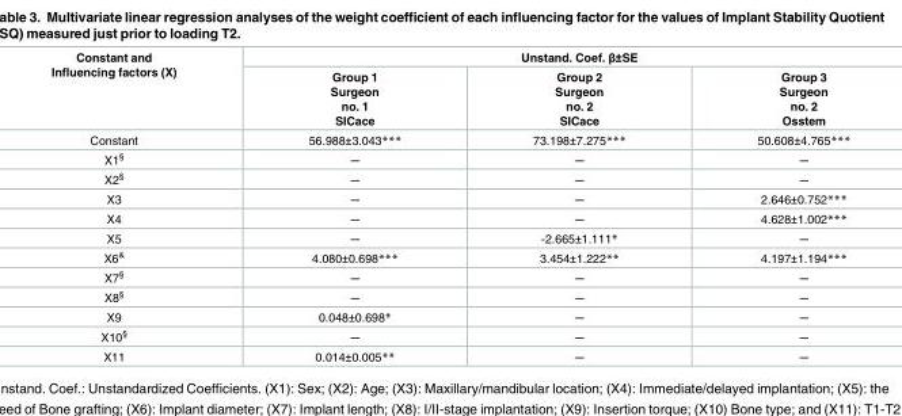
<table><thead><tr><td rowspan="2">Constant and Influencing factors (X)</td><td colspan="3">Unstand. Coef. β±SE</td></tr><tr><td>Group 1 Surgeon no. 1 SICace</td><td>Group 2 Surgeon no. 2 SICace</td><td>Group 3 Surgeon no. 2 Osstem</td></tr></thead><tbody><tr><td>Constant</td><td>56.988±3.043***</td><td>73.198±7.275***</td><td>50.608±4.765***</td></tr><tr><td>X1§</td><td>─</td><td>─</td><td>─</td></tr><tr><td>X2§</td><td>─</td><td>─</td><td>─</td></tr><tr><td>X3</td><td>─</td><td>─</td><td>2.646±0.752***</td></tr><tr><td>X4</td><td>─</td><td>─</td><td>4.628±1.002***</td></tr><tr><td>X5</td><td>─</td><td>-2.665±1.111*</td><td>─</td></tr><tr><td>X6&amp;</td><td>4.080±0.698***</td><td>3.454±1.222**</td><td>4.197±1.194***</td></tr><tr><td>X7§</td><td>─</td><td>─</td><td>─</td></tr><tr><td>X8§</td><td>─</td><td>─</td><td>─</td></tr><tr><td>X9</td><td>0.048±0.698*</td><td>─</td><td>─</td></tr><tr><td>X10§</td><td>─</td><td>─</td><td>─</td></tr><tr><td>X11</td><td>0.014±0.005**</td><td>─</td><td>─</td></tr></tbody></table>